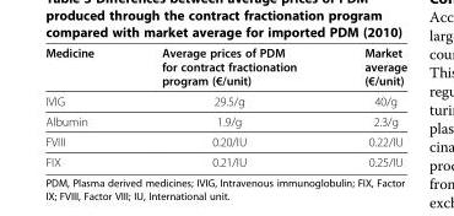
<table><thead><tr><td>Medicine</td><td>Average prices of PDM for contract fractionation program (€/unit)</td><td>Market average (€/unit)</td></tr></thead><tbody><tr><td>IVIG</td><td>29.5/g</td><td>40/g</td></tr><tr><td>Albumin</td><td>1.9/g</td><td>2.3/g</td></tr><tr><td>FVIII</td><td>0.20/IU</td><td>0.22/IU</td></tr><tr><td>FIX</td><td>0.21/IU</td><td>0.25/IU</td></tr></tbody></table>